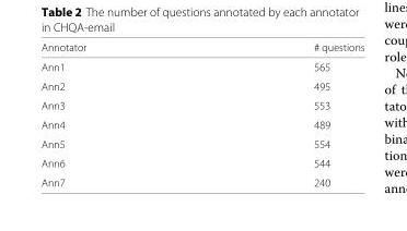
<table><thead><tr><td>Annotator</td><td># questions</td></tr></thead><tbody><tr><td>Ann1</td><td>565</td></tr><tr><td>Ann2</td><td>495</td></tr><tr><td>Ann3</td><td>553</td></tr><tr><td>Ann4</td><td>489</td></tr><tr><td>Ann5</td><td>554</td></tr><tr><td>Ann6</td><td>544</td></tr><tr><td>Ann7</td><td>240</td></tr></tbody></table>